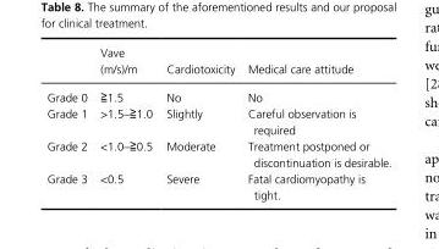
<table><thead><tr><td></td><td>Vave (m/s)/m</td><td>Cardiotoxicity</td><td>Medical care attitude</td></tr></thead><tbody><tr><td>Grade 0</td><td>≧1.5</td><td>No</td><td>No</td></tr><tr><td>Grade 1</td><td>&gt;1.5–≧1.0</td><td>Slightly</td><td>Careful observation is required</td></tr><tr><td>Grade 2</td><td>&lt;1.0–≧0.5</td><td>Moderate</td><td>Treatment postponed or discontinuation is desirable.</td></tr><tr><td>Grade 3</td><td>&lt;0.5</td><td>Severe</td><td>Fatal cardiomyopathy is tight.</td></tr></tbody></table>